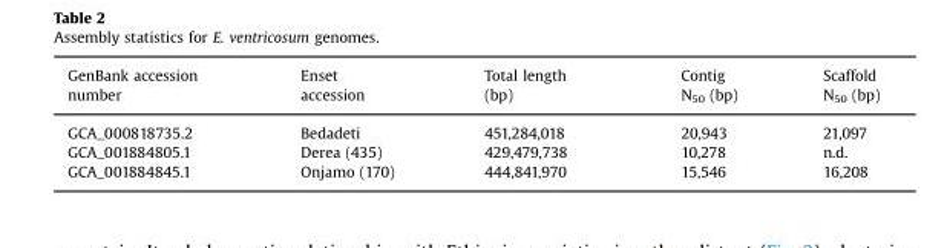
<table><thead><tr><td>GenBank accession number</td><td>Enset accession</td><td>Total length (bp)</td><td>Contig N<sub>50</sub> (bp)</td><td>Scaffold N<sub>50</sub> (bp)</td></tr></thead><tbody><tr><td>GCA_000818735.2</td><td>Bedadeti</td><td>451,284,018</td><td>20,943</td><td>21,097</td></tr><tr><td>GCA_001884805.1</td><td>Derea (435)</td><td>429,479,738</td><td>10,278</td><td>n.d.</td></tr><tr><td>GCA_001884845.1</td><td>Onjamo (170)</td><td>444,841,970</td><td>15,546</td><td>16,208</td></tr></tbody></table>